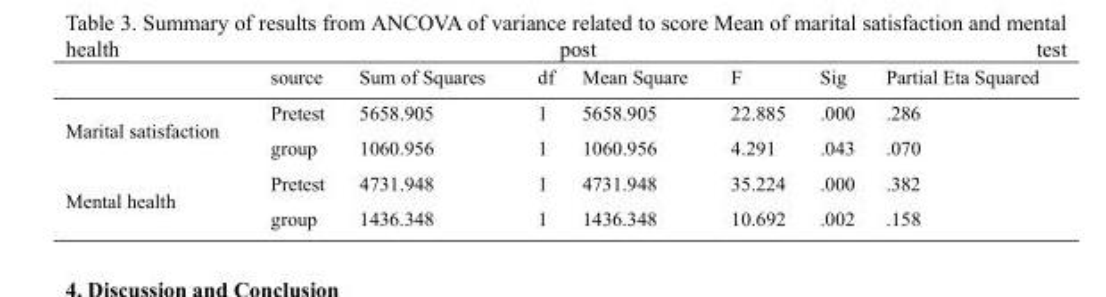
<table><thead><tr><td></td><td>source</td><td>Sum of Squares</td><td>df</td><td>Mean Square</td><td>F</td><td>Sig</td><td>Partial Eta Squared</td></tr></thead><tbody><tr><td rowspan="2">Marital satisfaction</td><td>Pretest</td><td>5658.905</td><td>1</td><td>5658.905</td><td>22.885</td><td>.000</td><td>.286</td></tr><tr><td>group</td><td>1060.956</td><td>1</td><td>1060.956</td><td>4.291</td><td>.043</td><td>.070</td></tr><tr><td rowspan="2">Mental health</td><td>Pretest</td><td>4731.948</td><td>1</td><td>4731.948</td><td>35.224</td><td>.000</td><td>.382</td></tr><tr><td>group</td><td>1436.348</td><td>1</td><td>1436.348</td><td>10.692</td><td>.002</td><td>.158</td></tr></tbody></table>